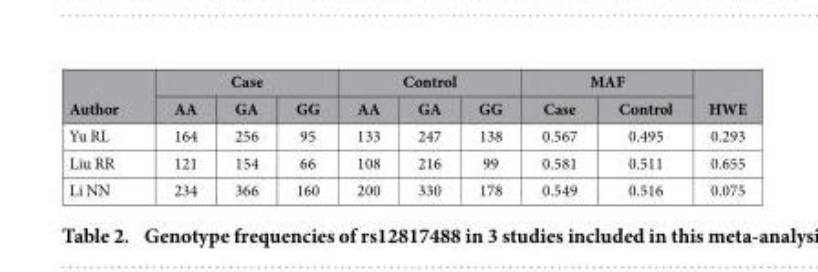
<table><thead><tr><td rowspan="2">Author</td><td colspan="3">Case</td><td colspan="3">Control</td><td colspan="2">MAF</td><td rowspan="2">HWE</td></tr><tr><td>AA</td><td>GA</td><td>GG</td><td>AA</td><td>GA</td><td>GG</td><td>Case</td><td>Control</td></tr></thead><tbody><tr><td>Yu RL</td><td>164</td><td>256</td><td>95</td><td>133</td><td>247</td><td>138</td><td>0.567</td><td>0.495</td><td>0.293</td></tr><tr><td>Liu RR</td><td>121</td><td>154</td><td>66</td><td>108</td><td>216</td><td>99</td><td>0.581</td><td>0.511</td><td>0.655</td></tr><tr><td>Li NN</td><td>234</td><td>366</td><td>160</td><td>200</td><td>330</td><td>178</td><td>0.549</td><td>0.516</td><td>0.075</td></tr></tbody></table>